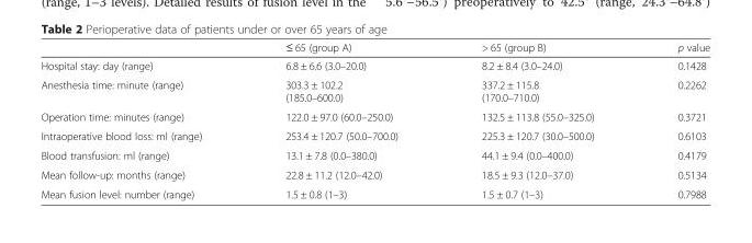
<table><thead><tr><td></td><td>≤ 65 (group A)</td><td>&gt; 65 (group B)</td><td>p value</td></tr></thead><tbody><tr><td>Hospital stay: day (range)</td><td>6.8 ± 6.6 (3.0–20.0)</td><td>8.2 ± 8.4 (3.0–24.0)</td><td>0.1428</td></tr><tr><td>Anesthesia time: minute (range)</td><td>303.3 ± 102.2 (185.0–600.0)</td><td>337.2 ± 115.8 (170.0–710.0)</td><td>0.2262</td></tr><tr><td>Operation time: minutes (range)</td><td>122.0 ± 97.0 (60.0–250.0)</td><td>132.5 ± 113.8 (55.0–325.0)</td><td>0.3721</td></tr><tr><td>Intraoperative blood loss: ml (range)</td><td>253.4 ± 120.7 (50.0–700.0)</td><td>225.3 ± 120.7 (30.0–500.0)</td><td>0.6103</td></tr><tr><td>Blood transfusion: ml (range)</td><td>13.1 ± 7.8 (0.0–380.0)</td><td>44.1 ± 9.4 (0.0–400.0)</td><td>0.4179</td></tr><tr><td>Mean follow-up: months (range)</td><td>22.8 ± 11.2 (12.0–42.0)</td><td>18.5 ± 9.3 (12.0–37.0)</td><td>0.5134</td></tr><tr><td>Mean fusion level: number (range)</td><td>1.5 ± 0.8 (1–3)</td><td>1.5 ± 0.7 (1–3)</td><td>0.7988</td></tr></tbody></table>